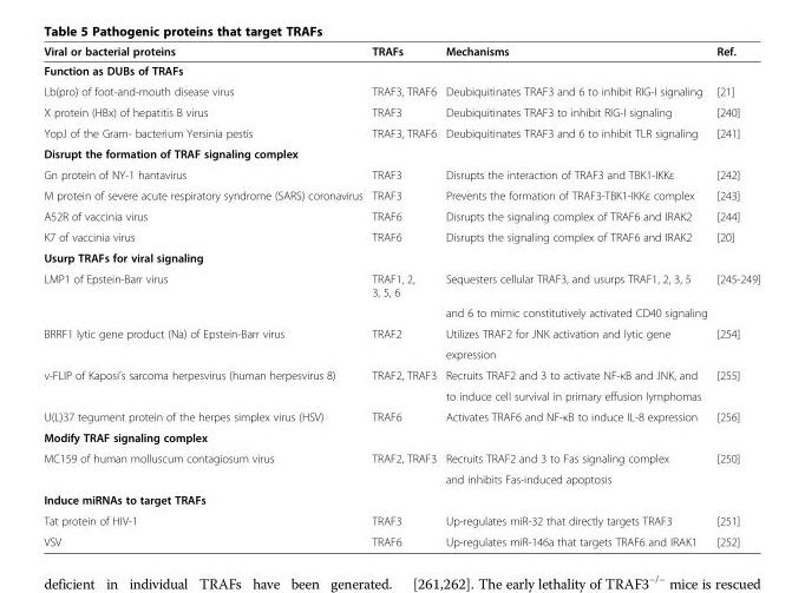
<table><thead><tr><td>Viral or bacterial proteins</td><td>TRAFs</td><td>Mechanisms</td><td>Ref.</td></tr></thead><tbody><tr><td colspan="4">Function as DUBs of TRAFs</td></tr><tr><td>Lb(pro) of foot-and-mouth disease virus</td><td>TRAF3, TRAF6</td><td>Deubiquitinates TRAF3 and 6 to inhibit RIG-I signaling</td><td>[21]</td></tr><tr><td>X protein (HBx) of hepatitis B virus</td><td>TRAF3</td><td>Deubiquitinates TRAF3 to inhibit RIG-I signaling</td><td>[240]</td></tr><tr><td>YopJ of the Gram- bacterium Yersinia pestis</td><td>TRAF3, TRAF6</td><td>Deubiquitinates TRAF3 and 6 to inhibit TLR signaling</td><td>[241]</td></tr><tr><td colspan="4">Disrupt the formation of TRAF signaling complex</td></tr><tr><td>Gn protein of NY-1 hantavirus</td><td>TRAF3</td><td>Disrupts the interaction of TRAF3 and TBK1-IKKε</td><td>[242]</td></tr><tr><td>M protein of severe acute respiratory syndrome (SARS) coronavirus</td><td>TRAF3</td><td>Prevents the formation of TRAF3-TBK1-IKKε complex</td><td>[243]</td></tr><tr><td>A52R of vaccinia virus</td><td>TRAF6</td><td>Disrupts the signaling complex of TRAF6 and IRAK2</td><td>[244]</td></tr><tr><td>K7 of vaccinia virus</td><td>TRAF6</td><td>Disrupts the signaling complex of TRAF6 and IRAK2</td><td>[20]</td></tr><tr><td colspan="4">Usurp TRAFs for viral signaling</td></tr><tr><td rowspan="2">LMP1 of Epstein-Barr virus</td><td>TRAF1, 2, 3, 5, 6</td><td>Sequesters cellular TRAF3, and usurps TRAF1, 2, 3, 5</td><td>[245-249]</td></tr><tr><td></td><td>and 6 to mimic constitutively activated CD40 signaling</td><td></td></tr><tr><td rowspan="2">BRRF1 lytic gene product (Na) of Epstein-Barr virus</td><td>TRAF2</td><td>Utilizes TRAF2 for JNK activation and lytic gene</td><td>[254]</td></tr><tr><td></td><td>expression</td><td></td></tr><tr><td rowspan="2">v-FLIP of Kaposi’s sarcoma herpesvirus (human herpesvirus 8)</td><td>TRAF2, TRAF3</td><td>Recruits TRAF2 and 3 to activate NF-κB and JNK, and</td><td>[255]</td></tr><tr><td></td><td>to induce cell survival in primary effusion lymphomas</td><td></td></tr><tr><td>U(L)37 tegument protein of the herpes simplex virus (HSV)</td><td>TRAF6</td><td>Activates TRAF6 and NF-κB to induce IL-8 expression</td><td>[256]</td></tr><tr><td colspan="4">Modify TRAF signaling complex</td></tr><tr><td rowspan="2">MC159 of human molluscum contagiosum virus</td><td>TRAF2, TRAF3</td><td>Recruits TRAF2 and 3 to Fas signaling complex</td><td>[250]</td></tr><tr><td></td><td>and inhibits Fas-induced apoptosis</td><td></td></tr><tr><td colspan="4">Induce miRNAs to target TRAFs</td></tr><tr><td>Tat protein of HIV-1</td><td>TRAF3</td><td>Up-regulates miR-32 that directly targets TRAF3</td><td>[251]</td></tr><tr><td>VSV</td><td>TRAF6</td><td>Up-regulates miR-146a that targets TRAF6 and IRAK1</td><td>[252]</td></tr></tbody></table>